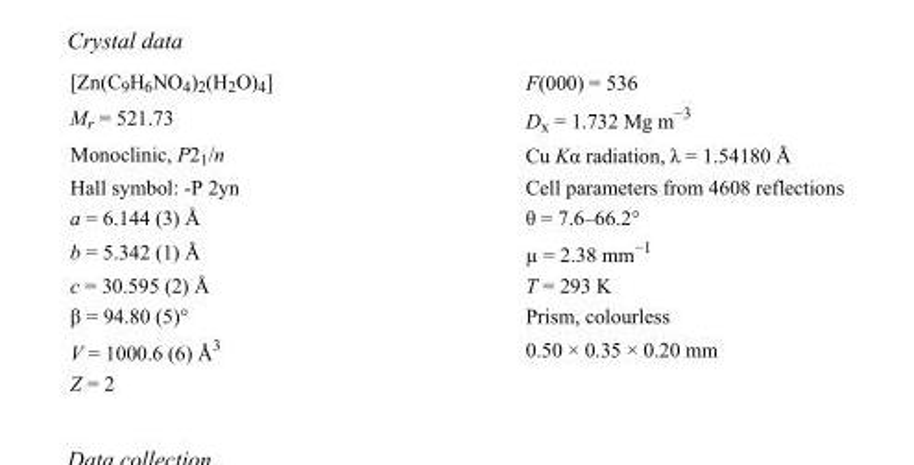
<table><tbody><tr><td>[Zn(C<sub>9</sub>H<sub>6</sub>NO<sub>4</sub>)<sub>2</sub>(H<sub>2</sub>O)<sub>4</sub>]</td><td>F(000) = 536</td></tr><tr><td>M<sub>r</sub> = 521.73</td><td>D<sub>x</sub> = 1.732 Mg m<sup>−3</sup></td></tr><tr><td>Monoclinic, P2<sub>1</sub>/n</td><td>Cu Kα radiation, λ = 1.54180 Å</td></tr><tr><td>Hall symbol: -P 2yn</td><td>Cell parameters from 4608 reflections</td></tr><tr><td>a = 6.144 (3) Å</td><td>θ = 7.6–66.2°</td></tr><tr><td>b = 5.342 (1) Å</td><td>µ = 2.38 mm<sup>−1</sup></td></tr><tr><td>c = 30.595 (2) Å</td><td>T = 293 K</td></tr><tr><td>β = 94.80 (5)°</td><td>Prism, colourless</td></tr><tr><td>V = 1000.6 (6) Å<sup>3</sup></td><td>0.50 × 0.35 × 0.20 mm</td></tr><tr><td>Z = 2</td><td></td></tr></tbody></table>